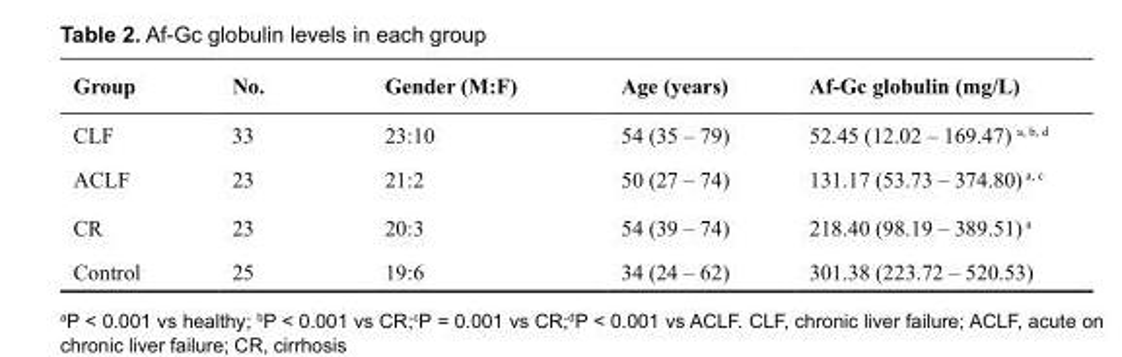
<table><thead><tr><td>Group</td><td>No.</td><td>Gender (M:F)</td><td>Age (years)</td><td>Af-Gc globulin (mg/L)</td></tr></thead><tbody><tr><td>CLF</td><td>33</td><td>23:10</td><td>54 (35 – 79)</td><td>52.45 (12.02 – 169.47) <sup>a, b, d</sup></td></tr><tr><td>ACLF</td><td>23</td><td>21:2</td><td>50 (27 – 74)</td><td>131.17 (53.73 – 374.80) <sup>a, c</sup></td></tr><tr><td>CR</td><td>23</td><td>20:3</td><td>54 (39 – 74)</td><td>218.40 (98.19 – 389.51) <sup>a</sup></td></tr><tr><td>Control</td><td>25</td><td>19:6</td><td>34 (24 – 62)</td><td>301.38 (223.72 – 520.53)</td></tr></tbody></table>